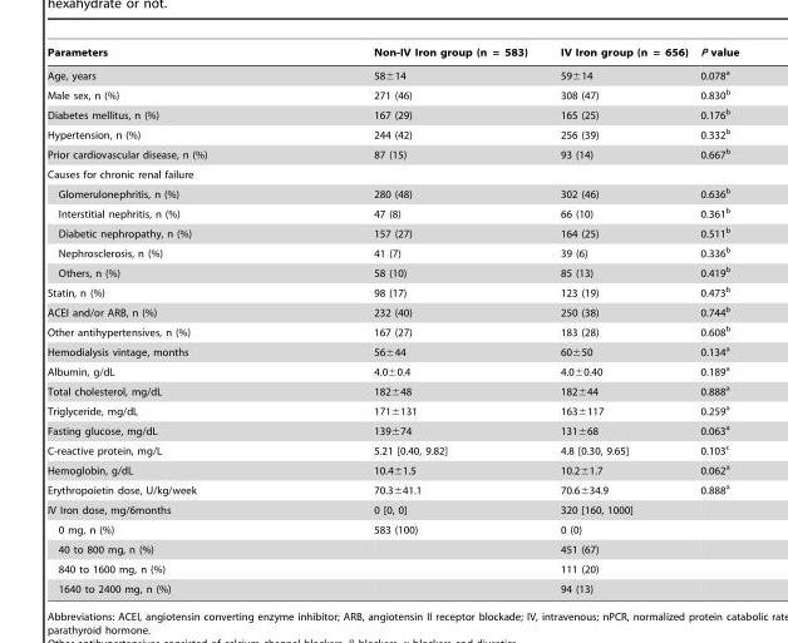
<table><thead><tr><td>Parameters</td><td>Non-IV Iron group (n = 583)</td><td>IV Iron group (n = 656)</td><td>P value</td></tr></thead><tbody><tr><td>Age, years</td><td>58±14</td><td>59±14</td><td>0.078<sup>a</sup></td></tr><tr><td>Male sex, n (%)</td><td>271 (46)</td><td>308 (47)</td><td>0.830<sup>b</sup></td></tr><tr><td>Diabetes mellitus, n (%)</td><td>167 (29)</td><td>165 (25)</td><td>0.176<sup>b</sup></td></tr><tr><td>Hypertension, n (%)</td><td>244 (42)</td><td>256 (39)</td><td>0.332<sup>b</sup></td></tr><tr><td>Prior cardiovascular disease, n (%)</td><td>87 (15)</td><td>93 (14)</td><td>0.667<sup>b</sup></td></tr><tr><td colspan="4">Causes for chronic renal failure</td></tr><tr><td>Glomerulonephritis, n (%)</td><td>280 (48)</td><td>302 (46)</td><td>0.636<sup>b</sup></td></tr><tr><td>Interstitial nephritis, n (%)</td><td>47 (8)</td><td>66 (10)</td><td>0.361<sup>b</sup></td></tr><tr><td>Diabetic nephropathy, n (%)</td><td>157 (27)</td><td>164 (25)</td><td>0.511<sup>b</sup></td></tr><tr><td>Nephrosclerosis, n (%)</td><td>41 (7)</td><td>39 (6)</td><td>0.336<sup>b</sup></td></tr><tr><td>Others, n (%)</td><td>58 (10)</td><td>85 (13)</td><td>0.419<sup>b</sup></td></tr><tr><td>Statin, n (%)</td><td>98 (17)</td><td>123 (19)</td><td>0.473<sup>b</sup></td></tr><tr><td>ACEI and/or ARB, n (%)</td><td>232 (40)</td><td>250 (38)</td><td>0.744<sup>b</sup></td></tr><tr><td>Other antihypertensives, n (%)</td><td>167 (27)</td><td>183 (28)</td><td>0.608<sup>b</sup></td></tr><tr><td>Hemodialysis vintage, months</td><td>56±44</td><td>60±50</td><td>0.134<sup>a</sup></td></tr><tr><td>Albumin, g/dL</td><td>4.0±0.4</td><td>4.0±0.40</td><td>0.189<sup>a</sup></td></tr><tr><td>Total cholesterol, mg/dL</td><td>182±48</td><td>182±44</td><td>0.888<sup>a</sup></td></tr><tr><td>Triglyceride, mg/dL</td><td>171±131</td><td>163±117</td><td>0.259<sup>a</sup></td></tr><tr><td>Fasting glucose, mg/dL</td><td>139±74</td><td>131±68</td><td>0.063<sup>a</sup></td></tr><tr><td>C-reactive protein, mg/L</td><td>5.21 [0.40, 9.82]</td><td>4.8 [0.30, 9.65]</td><td>0.103<sup>c</sup></td></tr><tr><td>Hemoglobin, g/dL</td><td>10.4±1.5</td><td>10.2±1.7</td><td>0.062<sup>a</sup></td></tr><tr><td>Erythropoietin dose, U/kg/week</td><td>70.3±41.1</td><td>70.6±34.9</td><td>0.888<sup>a</sup></td></tr><tr><td>IV Iron dose, mg/6months</td><td>0 [0, 0]</td><td>320 [160, 1000]</td><td></td></tr><tr><td>0 mg, n (%)</td><td>583 (100)</td><td>0 (0)</td><td></td></tr><tr><td>40 to 800 mg, n (%)</td><td></td><td>451 (67)</td><td></td></tr><tr><td>840 to 1600 mg, n (%)</td><td></td><td>111 (20)</td><td></td></tr><tr><td>1640 to 2400 mg, n (%)</td><td></td><td>94 (13)</td><td></td></tr></tbody></table>